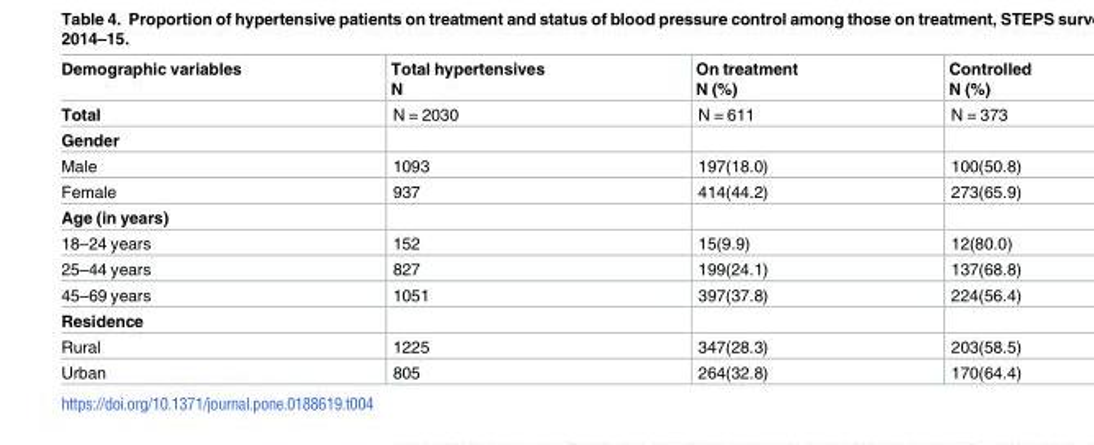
<table><thead><tr><td>Demographic variables</td><td>Total hypertensives N</td><td>On treatment N (%)</td><td>Controlled N (%)</td></tr></thead><tbody><tr><td>Total</td><td>N = 2030</td><td>N = 611</td><td>N = 373</td></tr><tr><td colspan="4">Gender</td></tr><tr><td>Male</td><td>1093</td><td>197(18.0)</td><td>100(50.8)</td></tr><tr><td>Female</td><td>937</td><td>414(44.2)</td><td>273(65.9)</td></tr><tr><td colspan="4">Age (in years)</td></tr><tr><td>18–24 years</td><td>152</td><td>15(9.9)</td><td>12(80.0)</td></tr><tr><td>25–44 years</td><td>827</td><td>199(24.1)</td><td>137(68.8)</td></tr><tr><td>45–69 years</td><td>1051</td><td>397(37.8)</td><td>224(56.4)</td></tr><tr><td colspan="4">Residence</td></tr><tr><td>Rural</td><td>1225</td><td>347(28.3)</td><td>203(58.5)</td></tr><tr><td>Urban</td><td>805</td><td>264(32.8)</td><td>170(64.4)</td></tr></tbody></table>